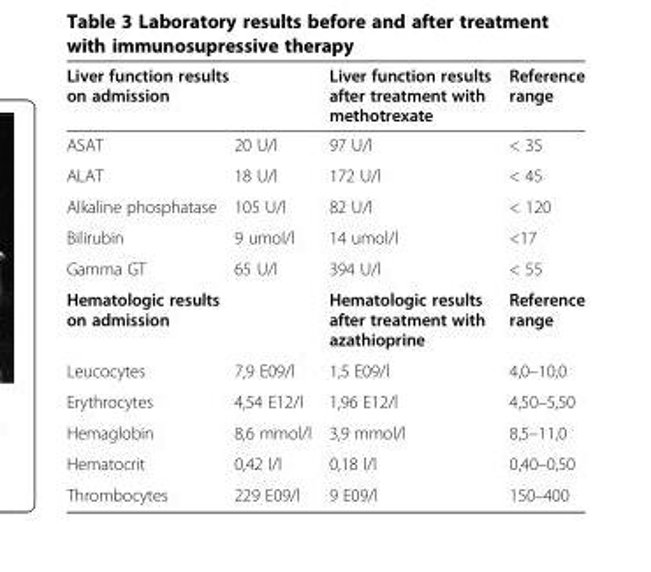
<table><thead><tr><td colspan="2">Liver function results on admission</td><td rowspan="2">Liver function results after treatment with methotrexate 97 U/l</td><td rowspan="2">Reference range &lt; 35</td></tr><tr><td>ASAT</td><td>20 U/l</td></tr></thead><tbody><tr><td>ALAT</td><td>18 U/l</td><td>172 U/l</td><td>&lt; 45</td></tr><tr><td>Alkaline phosphatase</td><td>105 U/l</td><td>82 U/l</td><td>&lt; 120</td></tr><tr><td>Bilirubin</td><td>9 umol/l</td><td>14 umol/l</td><td>&lt;17</td></tr><tr><td>Gamma GT</td><td>65 U/l</td><td>394 U/l</td><td>&lt; 55</td></tr><tr><td colspan="2">Hematologic results on admission</td><td>Hematologic results after treatment with azathioprine</td><td>Reference range</td></tr><tr><td>Leucocytes</td><td>7,9 E09/l</td><td>1,5 E09/l</td><td>4,0–10,0</td></tr><tr><td>Erythrocytes</td><td>4,54 E12/l</td><td>1,96 E12/l</td><td>4,50–5,50</td></tr><tr><td>Hemaglobin</td><td>8,6 mmol/l</td><td>3,9 mmol/l</td><td>8,5–11,0</td></tr><tr><td>Hematocrit</td><td>0,42 l/l</td><td>0,18 l/l</td><td>0,40–0,50</td></tr><tr><td>Thrombocytes</td><td>229 E09/l</td><td>9 E09/l</td><td>150–400</td></tr></tbody></table>